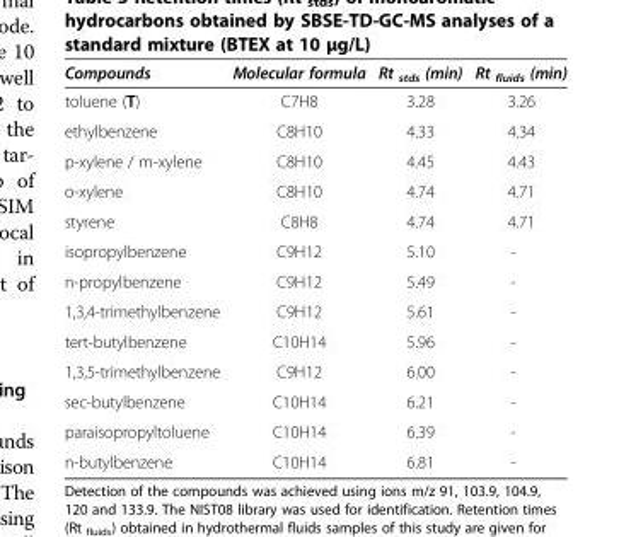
<table><thead><tr><td>Compounds</td><td>Molecular formula</td><td>Rt <sub>stds</sub> (min)</td><td>Rt <sub>fluids</sub> (min)</td></tr></thead><tbody><tr><td>toluene (T)</td><td>C7H8</td><td>3.28</td><td>3.26</td></tr><tr><td>ethylbenzene</td><td>C8H10</td><td>4.33</td><td>4.34</td></tr><tr><td>p-xylene / m-xylene</td><td>C8H10</td><td>4.45</td><td>4.43</td></tr><tr><td>o-xylene</td><td>C8H10</td><td>4.74</td><td>4.71</td></tr><tr><td>styrene</td><td>C8H8</td><td>4.74</td><td>4.71</td></tr><tr><td>isopropylbenzene</td><td>C9H12</td><td>5.10</td><td>-</td></tr><tr><td>n-propylbenzene</td><td>C9H12</td><td>5.49</td><td>-</td></tr><tr><td>1,3,4-trimethylbenzene</td><td>C9H12</td><td>5.61</td><td>-</td></tr><tr><td>tert-butylbenzene</td><td>C10H14</td><td>5.96</td><td>-</td></tr><tr><td>1,3,5-trimethylbenzene</td><td>C9H12</td><td>6.00</td><td>-</td></tr><tr><td>sec-butylbenzene</td><td>C10H14</td><td>6.21</td><td>-</td></tr><tr><td>paraisopropyltoluene</td><td>C10H14</td><td>6.39</td><td>-</td></tr><tr><td>n-butylbenzene</td><td>C10H14</td><td>6.81</td><td>-</td></tr></tbody></table>